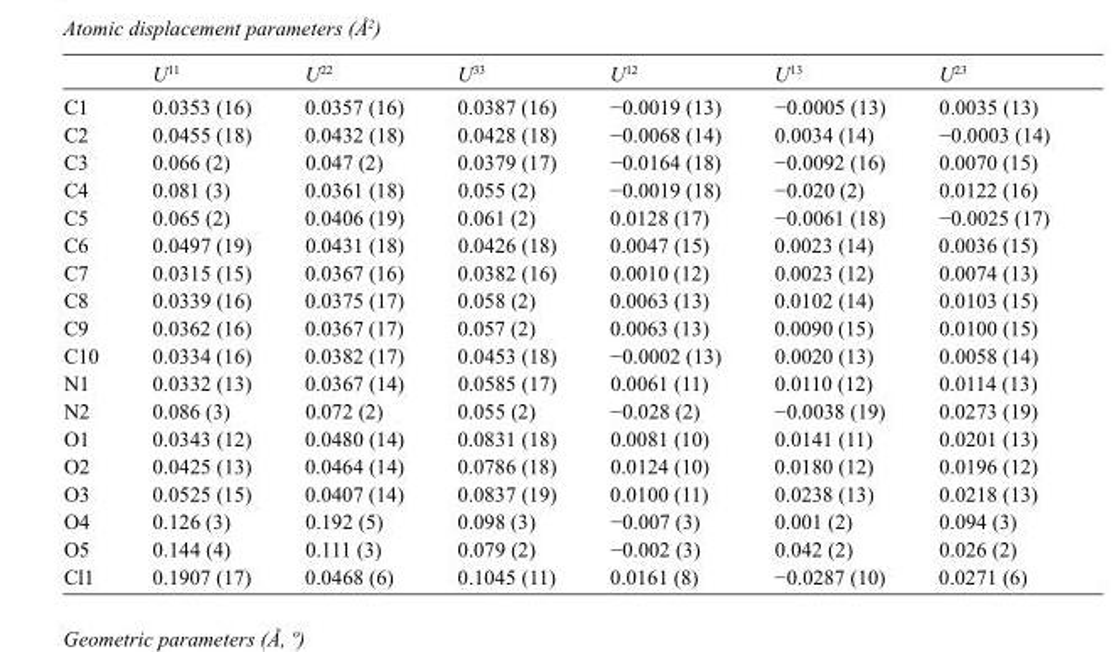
<table><thead><tr><td></td><td>U<sup>11</sup></td><td>U<sup>22</sup></td><td>U<sup>33</sup></td><td>U<sup>12</sup></td><td>U<sup>13</sup></td><td>U<sup>23</sup></td></tr></thead><tbody><tr><td>C1</td><td>0.0353 (16)</td><td>0.0357 (16)</td><td>0.0387 (16)</td><td>−0.0019 (13)</td><td>−0.0005 (13)</td><td>0.0035 (13)</td></tr><tr><td>C2</td><td>0.0455 (18)</td><td>0.0432 (18)</td><td>0.0428 (18)</td><td>−0.0068 (14)</td><td>0.0034 (14)</td><td>−0.0003 (14)</td></tr><tr><td>C3</td><td>0.066 (2)</td><td>0.047 (2)</td><td>0.0379 (17)</td><td>−0.0164 (18)</td><td>−0.0092 (16)</td><td>0.0070 (15)</td></tr><tr><td>C4</td><td>0.081 (3)</td><td>0.0361 (18)</td><td>0.055 (2)</td><td>−0.0019 (18)</td><td>−0.020 (2)</td><td>0.0122 (16)</td></tr><tr><td>C5</td><td>0.065 (2)</td><td>0.0406 (19)</td><td>0.061 (2)</td><td>0.0128 (17)</td><td>−0.0061 (18)</td><td>−0.0025 (17)</td></tr><tr><td>C6</td><td>0.0497 (19)</td><td>0.0431 (18)</td><td>0.0426 (18)</td><td>0.0047 (15)</td><td>0.0023 (14)</td><td>0.0036 (15)</td></tr><tr><td>C7</td><td>0.0315 (15)</td><td>0.0367 (16)</td><td>0.0382 (16)</td><td>0.0010 (12)</td><td>0.0023 (12)</td><td>0.0074 (13)</td></tr><tr><td>C8</td><td>0.0339 (16)</td><td>0.0375 (17)</td><td>0.058 (2)</td><td>0.0063 (13)</td><td>0.0102 (14)</td><td>0.0103 (15)</td></tr><tr><td>C9</td><td>0.0362 (16)</td><td>0.0367 (17)</td><td>0.057 (2)</td><td>0.0063 (13)</td><td>0.0090 (15)</td><td>0.0100 (15)</td></tr><tr><td>C10</td><td>0.0334 (16)</td><td>0.0382 (17)</td><td>0.0453 (18)</td><td>−0.0002 (13)</td><td>0.0020 (13)</td><td>0.0058 (14)</td></tr><tr><td>N1</td><td>0.0332 (13)</td><td>0.0367 (14)</td><td>0.0585 (17)</td><td>0.0061 (11)</td><td>0.0110 (12)</td><td>0.0114 (13)</td></tr><tr><td>N2</td><td>0.086 (3)</td><td>0.072 (2)</td><td>0.055 (2)</td><td>−0.028 (2)</td><td>−0.0038 (19)</td><td>0.0273 (19)</td></tr><tr><td>O1</td><td>0.0343 (12)</td><td>0.0480 (14)</td><td>0.0831 (18)</td><td>0.0081 (10)</td><td>0.0141 (11)</td><td>0.0201 (13)</td></tr><tr><td>O2</td><td>0.0425 (13)</td><td>0.0464 (14)</td><td>0.0786 (18)</td><td>0.0124 (10)</td><td>0.0180 (12)</td><td>0.0196 (12)</td></tr><tr><td>O3</td><td>0.0525 (15)</td><td>0.0407 (14)</td><td>0.0837 (19)</td><td>0.0100 (11)</td><td>0.0238 (13)</td><td>0.0218 (13)</td></tr><tr><td>O4</td><td>0.126 (3)</td><td>0.192 (5)</td><td>0.098 (3)</td><td>−0.007 (3)</td><td>0.001 (2)</td><td>0.094 (3)</td></tr><tr><td>O5</td><td>0.144 (4)</td><td>0.111 (3)</td><td>0.079 (2)</td><td>−0.002 (3)</td><td>0.042 (2)</td><td>0.026 (2)</td></tr><tr><td>Cl1</td><td>0.1907 (17)</td><td>0.0468 (6)</td><td>0.1045 (11)</td><td>0.0161 (8)</td><td>−0.0287 (10)</td><td>0.0271 (6)</td></tr></tbody></table>